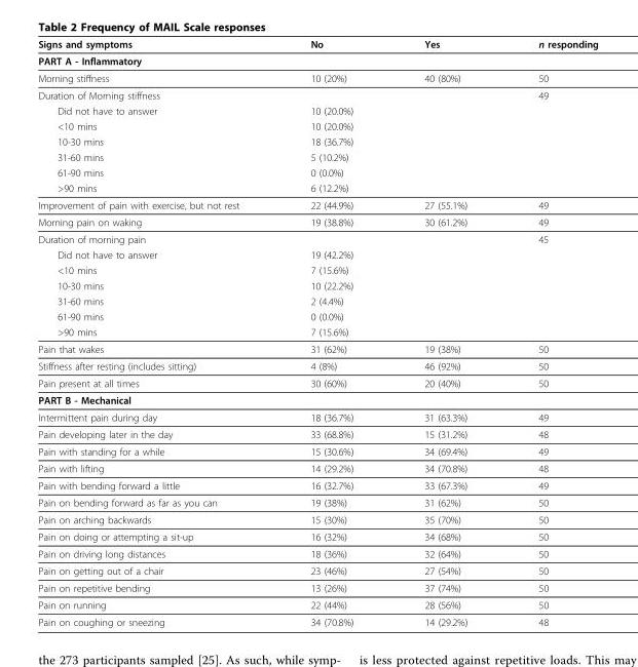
<table><thead><tr><td>Signs and symptoms</td><td>No</td><td>Yes</td><td>n responding</td></tr></thead><tbody><tr><td colspan="4">PART A - Inflammatory</td></tr><tr><td>Morning stiffness</td><td>10 (20%)</td><td>40 (80%)</td><td>50</td></tr><tr><td>Duration of Morning stiffness</td><td></td><td></td><td>49</td></tr><tr><td>Did not have to answer</td><td colspan="2">10 (20.0%)</td><td></td></tr><tr><td>&lt;10 mins</td><td colspan="2">10 (20.0%)</td><td></td></tr><tr><td>10-30 mins</td><td colspan="2">18 (36.7%)</td><td></td></tr><tr><td>31-60 mins</td><td colspan="2">5 (10.2%)</td><td></td></tr><tr><td>61-90 mins</td><td colspan="2">0 (0.0%)</td><td></td></tr><tr><td>&gt;90 mins</td><td colspan="2">6 (12.2%)</td><td></td></tr><tr><td>Improvement of pain with exercise, but not rest</td><td>22 (44.9%)</td><td>27 (55.1%)</td><td>49</td></tr><tr><td>Morning pain on waking</td><td>19 (38.8%)</td><td>30 (61.2%)</td><td>49</td></tr><tr><td>Duration of morning pain</td><td></td><td></td><td>45</td></tr><tr><td>Did not have to answer</td><td colspan="2">19 (42.2%)</td><td></td></tr><tr><td>&lt;10 mins</td><td colspan="2">7 (15.6%)</td><td></td></tr><tr><td>10-30 mins</td><td colspan="2">10 (22.2%)</td><td></td></tr><tr><td>31-60 mins</td><td colspan="2">2 (4.4%)</td><td></td></tr><tr><td>61-90 mins</td><td colspan="2">0 (0.0%)</td><td></td></tr><tr><td>&gt;90 mins</td><td colspan="2">7 (15.6%)</td><td></td></tr><tr><td>Pain that wakes</td><td>31 (62%)</td><td>19 (38%)</td><td>50</td></tr><tr><td>Stiffness after resting (includes sitting)</td><td>4 (8%)</td><td>46 (92%)</td><td>50</td></tr><tr><td>Pain present at all times</td><td>30 (60%)</td><td>20 (40%)</td><td>50</td></tr><tr><td colspan="4">PART B - Mechanical</td></tr><tr><td>Intermittent pain during day</td><td>18 (36.7%)</td><td>31 (63.3%)</td><td>49</td></tr><tr><td>Pain developing later in the day</td><td>33 (68.8%)</td><td>15 (31.2%)</td><td>48</td></tr><tr><td>Pain with standing for a while</td><td>15 (30.6%)</td><td>34 (69.4%)</td><td>49</td></tr><tr><td>Pain with lifting</td><td>14 (29.2%)</td><td>34 (70.8%)</td><td>48</td></tr><tr><td>Pain with bending forward a little</td><td>16 (32.7%)</td><td>33 (67.3%)</td><td>49</td></tr><tr><td>Pain on bending forward as far as you can</td><td>19 (38%)</td><td>31 (62%)</td><td>50</td></tr><tr><td>Pain on arching backwards</td><td>15 (30%)</td><td>35 (70%)</td><td>50</td></tr><tr><td>Pain on doing or attempting a sit-up</td><td>16 (32%)</td><td>34 (68%)</td><td>50</td></tr><tr><td>Pain on driving long distances</td><td>18 (36%)</td><td>32 (64%)</td><td>50</td></tr><tr><td>Pain on getting out of a chair</td><td>23 (46%)</td><td>27 (54%)</td><td>50</td></tr><tr><td>Pain on repetitive bending</td><td>13 (26%)</td><td>37 (74%)</td><td>50</td></tr><tr><td>Pain on running</td><td>22 (44%)</td><td>28 (56%)</td><td>50</td></tr><tr><td>Pain on coughing or sneezing</td><td>34 (70.8%)</td><td>14 (29.2%)</td><td>48</td></tr></tbody></table>